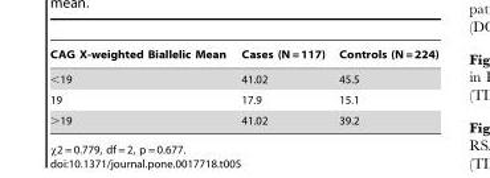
<table><thead><tr><td>CAG X-weighted Biallelic Mean</td><td>Cases (N = 117)</td><td>Controls (N = 224)</td></tr></thead><tbody><tr><td>&lt;19</td><td>41.02</td><td>45.5</td></tr><tr><td>19</td><td>17.9</td><td>15.1</td></tr><tr><td>&gt;19</td><td>41.02</td><td>39.2</td></tr></tbody></table>